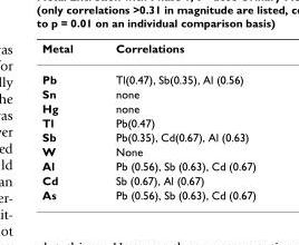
<table><thead><tr><td>Metal</td><td>Correlations</td></tr></thead><tbody><tr><td>Pb</td><td>Tl(0.47), Sb(0.35), Al (0.56)</td></tr><tr><td>Sn</td><td>none</td></tr><tr><td>Hg</td><td>none</td></tr><tr><td>Tl</td><td>Pb(0.47)</td></tr><tr><td>Sb</td><td>Pb(0.35), Cd(0.67), Al (0.63)</td></tr><tr><td>W</td><td>None</td></tr><tr><td>Al</td><td>Pb (0.56), Sb (0.63), Cd (0.67)</td></tr><tr><td>Cd</td><td>Sb (0.67), Al (0.67)</td></tr><tr><td>As</td><td>Pb (0.56), Sb (0.63), Cd (0.67)</td></tr></tbody></table>